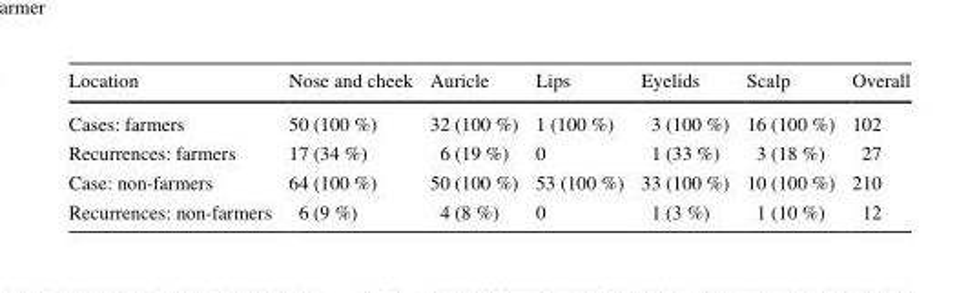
<table><thead><tr><td>Location</td><td>Nose and cheek</td><td>Auricle</td><td>Lips</td><td>Eyelids</td><td>Scalp</td><td>Overall</td></tr></thead><tbody><tr><td>Cases: farmers</td><td>50 (100 %)</td><td>32 (100 %)</td><td>1 (100 %)</td><td>3 (100 %)</td><td>16 (100 %)</td><td>102</td></tr><tr><td>Recurrences: farmers</td><td>17 (34 %)</td><td>6 (19 %)</td><td>0</td><td>1 (33 %)</td><td>3 (18 %)</td><td>27</td></tr><tr><td>Case: non-farmers</td><td>64 (100 %)</td><td>50 (100 %)</td><td>53 (100 %)</td><td>33 (100 %)</td><td>10 (100 %)</td><td>210</td></tr><tr><td>Recurrences: non-farmers</td><td>6 (9 %)</td><td>4 (8 %)</td><td>0</td><td>1 (3 %)</td><td>1 (10 %)</td><td>12</td></tr></tbody></table>